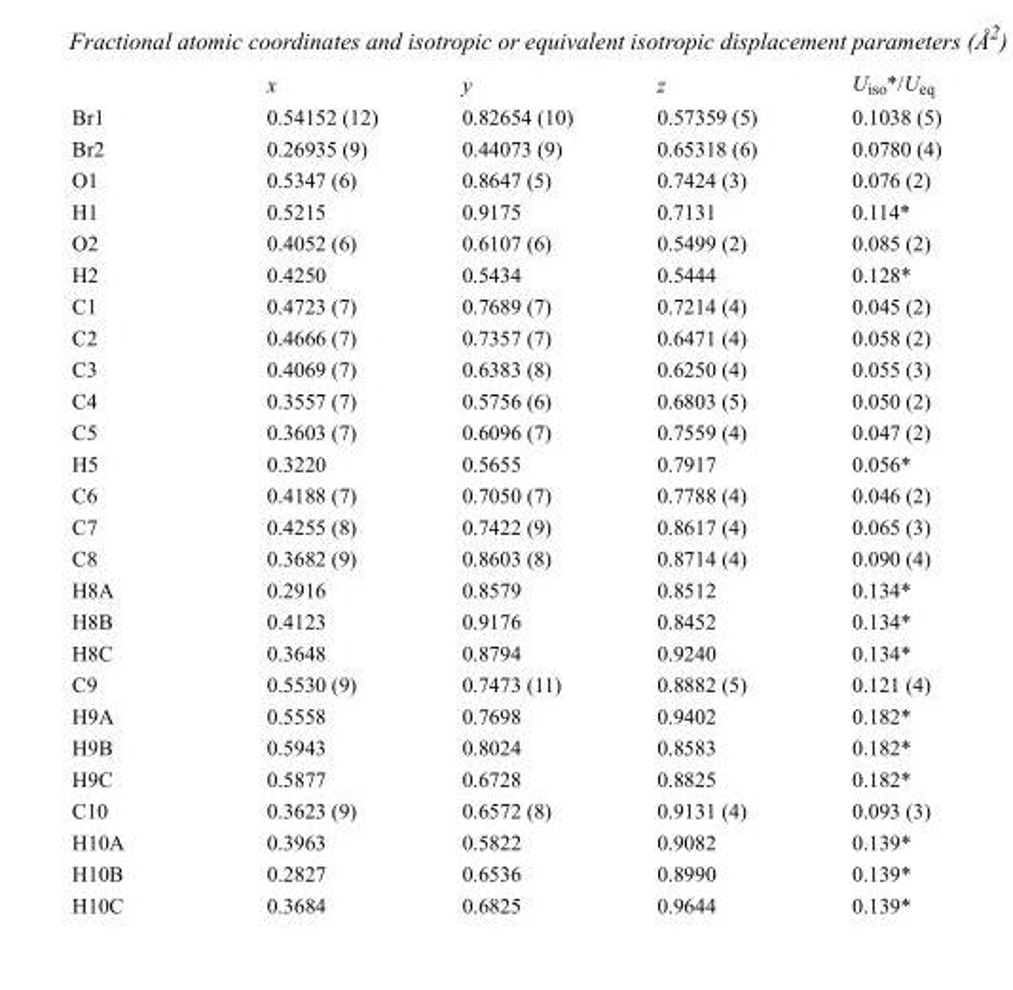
<table><thead><tr><td></td><td>x</td><td>y</td><td>z</td><td>U<sub>iso</sub>*/U<sub>eq</sub></td></tr></thead><tbody><tr><td>Br1</td><td>0.54152 (12)</td><td>0.82654 (10)</td><td>0.57359 (5)</td><td>0.1038 (5)</td></tr><tr><td>Br2</td><td>0.26935 (9)</td><td>0.44073 (9)</td><td>0.65318 (6)</td><td>0.0780 (4)</td></tr><tr><td>O1</td><td>0.5347 (6)</td><td>0.8647 (5)</td><td>0.7424 (3)</td><td>0.076 (2)</td></tr><tr><td>H1</td><td>0.5215</td><td>0.9175</td><td>0.7131</td><td>0.114*</td></tr><tr><td>O2</td><td>0.4052 (6)</td><td>0.6107 (6)</td><td>0.5499 (2)</td><td>0.085 (2)</td></tr><tr><td>H2</td><td>0.4250</td><td>0.5434</td><td>0.5444</td><td>0.128*</td></tr><tr><td>C1</td><td>0.4723 (7)</td><td>0.7689 (7)</td><td>0.7214 (4)</td><td>0.045 (2)</td></tr><tr><td>C2</td><td>0.4666 (7)</td><td>0.7357 (7)</td><td>0.6471 (4)</td><td>0.058 (2)</td></tr><tr><td>C3</td><td>0.4069 (7)</td><td>0.6383 (8)</td><td>0.6250 (4)</td><td>0.055 (3)</td></tr><tr><td>C4</td><td>0.3557 (7)</td><td>0.5756 (6)</td><td>0.6803 (5)</td><td>0.050 (2)</td></tr><tr><td>C5</td><td>0.3603 (7)</td><td>0.6096 (7)</td><td>0.7559 (4)</td><td>0.047 (2)</td></tr><tr><td>H5</td><td>0.3220</td><td>0.5655</td><td>0.7917</td><td>0.056*</td></tr><tr><td>C6</td><td>0.4188 (7)</td><td>0.7050 (7)</td><td>0.7788 (4)</td><td>0.046 (2)</td></tr><tr><td>C7</td><td>0.4255 (8)</td><td>0.7422 (9)</td><td>0.8617 (4)</td><td>0.065 (3)</td></tr><tr><td>C8</td><td>0.3682 (9)</td><td>0.8603 (8)</td><td>0.8714 (4)</td><td>0.090 (4)</td></tr><tr><td>H8A</td><td>0.2916</td><td>0.8579</td><td>0.8512</td><td>0.134*</td></tr><tr><td>H8B</td><td>0.4123</td><td>0.9176</td><td>0.8452</td><td>0.134*</td></tr><tr><td>H8C</td><td>0.3648</td><td>0.8794</td><td>0.9240</td><td>0.134*</td></tr><tr><td>C9</td><td>0.5530 (9)</td><td>0.7473 (11)</td><td>0.8882 (5)</td><td>0.121 (4)</td></tr><tr><td>H9A</td><td>0.5558</td><td>0.7698</td><td>0.9402</td><td>0.182*</td></tr><tr><td>H9B</td><td>0.5943</td><td>0.8024</td><td>0.8583</td><td>0.182*</td></tr><tr><td>H9C</td><td>0.5877</td><td>0.6728</td><td>0.8825</td><td>0.182*</td></tr><tr><td>C10</td><td>0.3623 (9)</td><td>0.6572 (8)</td><td>0.9131 (4)</td><td>0.093 (3)</td></tr><tr><td>H10A</td><td>0.3963</td><td>0.5822</td><td>0.9082</td><td>0.139*</td></tr><tr><td>H10B</td><td>0.2827</td><td>0.6536</td><td>0.8990</td><td>0.139*</td></tr><tr><td>H10C</td><td>0.3684</td><td>0.6825</td><td>0.9644</td><td>0.139*</td></tr></tbody></table>